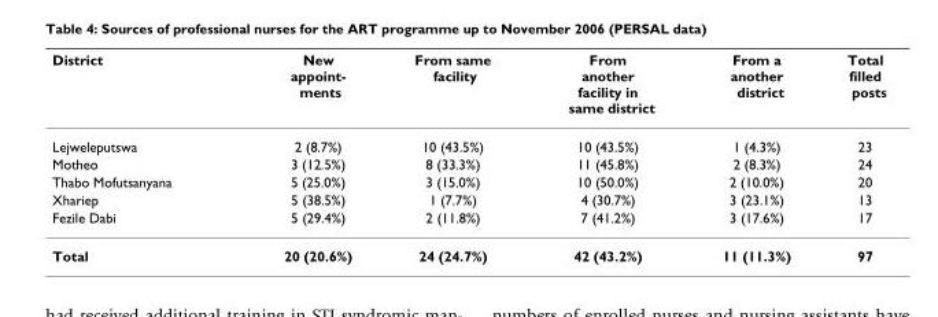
<table><thead><tr><td>District</td><td>New appoint- ments</td><td>From same facility</td><td>From another facility in same district</td><td>From a another district</td><td>Total filled posts</td></tr></thead><tbody><tr><td>Lejweleputswa</td><td>2 (8.7%)</td><td>10 (43.5%)</td><td>10 (43.5%)</td><td>1 (4.3%)</td><td>23</td></tr><tr><td>Motheo</td><td>3 (12.5%)</td><td>8 (33.3%)</td><td>11 (45.8%)</td><td>2 (8.3%)</td><td>24</td></tr><tr><td>Thabo Mofutsanyana</td><td>5 (25.0%)</td><td>3 (15.0%)</td><td>10 (50.0%)</td><td>2 (10.0%)</td><td>20</td></tr><tr><td>Xhariep</td><td>5 (38.5%)</td><td>1 (7.7%)</td><td>4 (30.7%)</td><td>3 (23.1%)</td><td>13</td></tr><tr><td>Fezile Dabi</td><td>5 (29.4%)</td><td>2 (11.8%)</td><td>7 (41.2%)</td><td>3 (17.6%)</td><td>17</td></tr><tr><td>Total</td><td>20 (20.6%)</td><td>24 (24.7%)</td><td>42 (43.2%)</td><td>11 (11.3%)</td><td>97</td></tr></tbody></table>